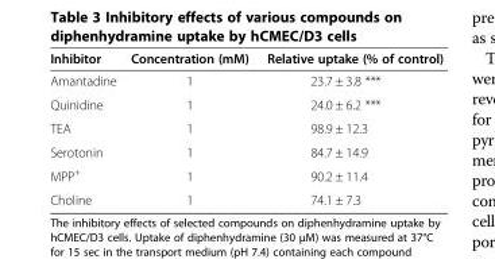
<table><thead><tr><td>Inhibitor</td><td>Concentration (mM)</td><td>Relative uptake (% of control)</td></tr></thead><tbody><tr><td>Amantadine</td><td>1</td><td>23.7 ± 3.8 ***</td></tr><tr><td>Quinidine</td><td>1</td><td>24.0 ± 6.2 ***</td></tr><tr><td>TEA</td><td>1</td><td>98.9 ± 12.3</td></tr><tr><td>Serotonin</td><td>1</td><td>84.7 ± 14.9</td></tr><tr><td>MPP<sup>+</sup></td><td>1</td><td>90.2 ± 11.4</td></tr><tr><td>Choline</td><td>1</td><td>74.1 ± 7.3</td></tr></tbody></table>